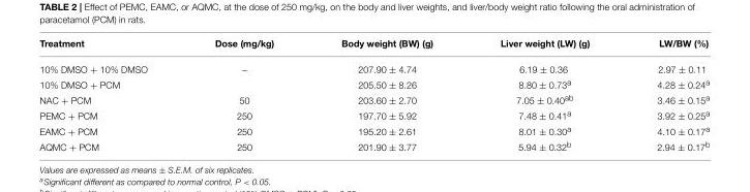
<table><thead><tr><td>Treatment</td><td>Dose (mg/kg)</td><td>Body weight (BW) (g)</td><td>Liver weight (LW) (g)</td><td>LW/BW (%)</td></tr></thead><tbody><tr><td>10% DMSO + 10% DMSO</td><td>–</td><td>207.90 ± 4.74</td><td>6.19 ± 0.36</td><td>2.97 ± 0.11</td></tr><tr><td>10% DMSO + PCM</td><td></td><td>205.50 ± 8.26</td><td>8.80 ± 0.73<sup>a</sup></td><td>4.28 ± 0.24<sup>a</sup></td></tr><tr><td>NAC + PCM</td><td>50</td><td>203.60 ± 2.70</td><td>7.05 ± 0.40<sup>ab</sup></td><td>3.46 ± 0.15<sup>a</sup></td></tr><tr><td>PEMC + PCM</td><td>250</td><td>197.70 ± 5.92</td><td>7.48 ± 0.41<sup>a</sup></td><td>3.92 ± 0.25<sup>a</sup></td></tr><tr><td>EAMC + PCM</td><td>250</td><td>195.20 ± 2.61</td><td>8.01 ± 0.30<sup>a</sup></td><td>4.10 ± 0.17<sup>a</sup></td></tr><tr><td>AQMC + PCM</td><td>250</td><td>201.90 ± 3.77</td><td>5.94 ± 0.32<sup>b</sup></td><td>2.94 ± 0.17<sup>b</sup></td></tr></tbody></table>